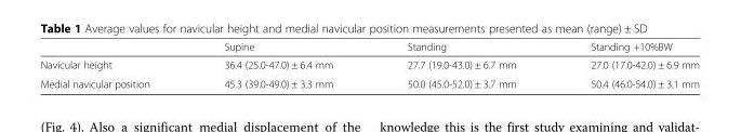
<table><thead><tr><td></td><td>Supine</td><td>Standing</td><td>Standing +10%BW</td></tr></thead><tbody><tr><td>Navicular height</td><td>36.4 (25.0-47.0) ± 6.4 mm</td><td>27.7 (19.0-43.0) ± 6.7 mm</td><td>27.0 (17.0-42.0) ± 6.9 mm</td></tr><tr><td>Medial navicular position</td><td>45.3 (39.0-49.0) ± 3.3 mm</td><td>50.0 (45.0-52.0) ± 3.7 mm</td><td>50.4 (46.0-54.0) ± 3.1 mm</td></tr></tbody></table>